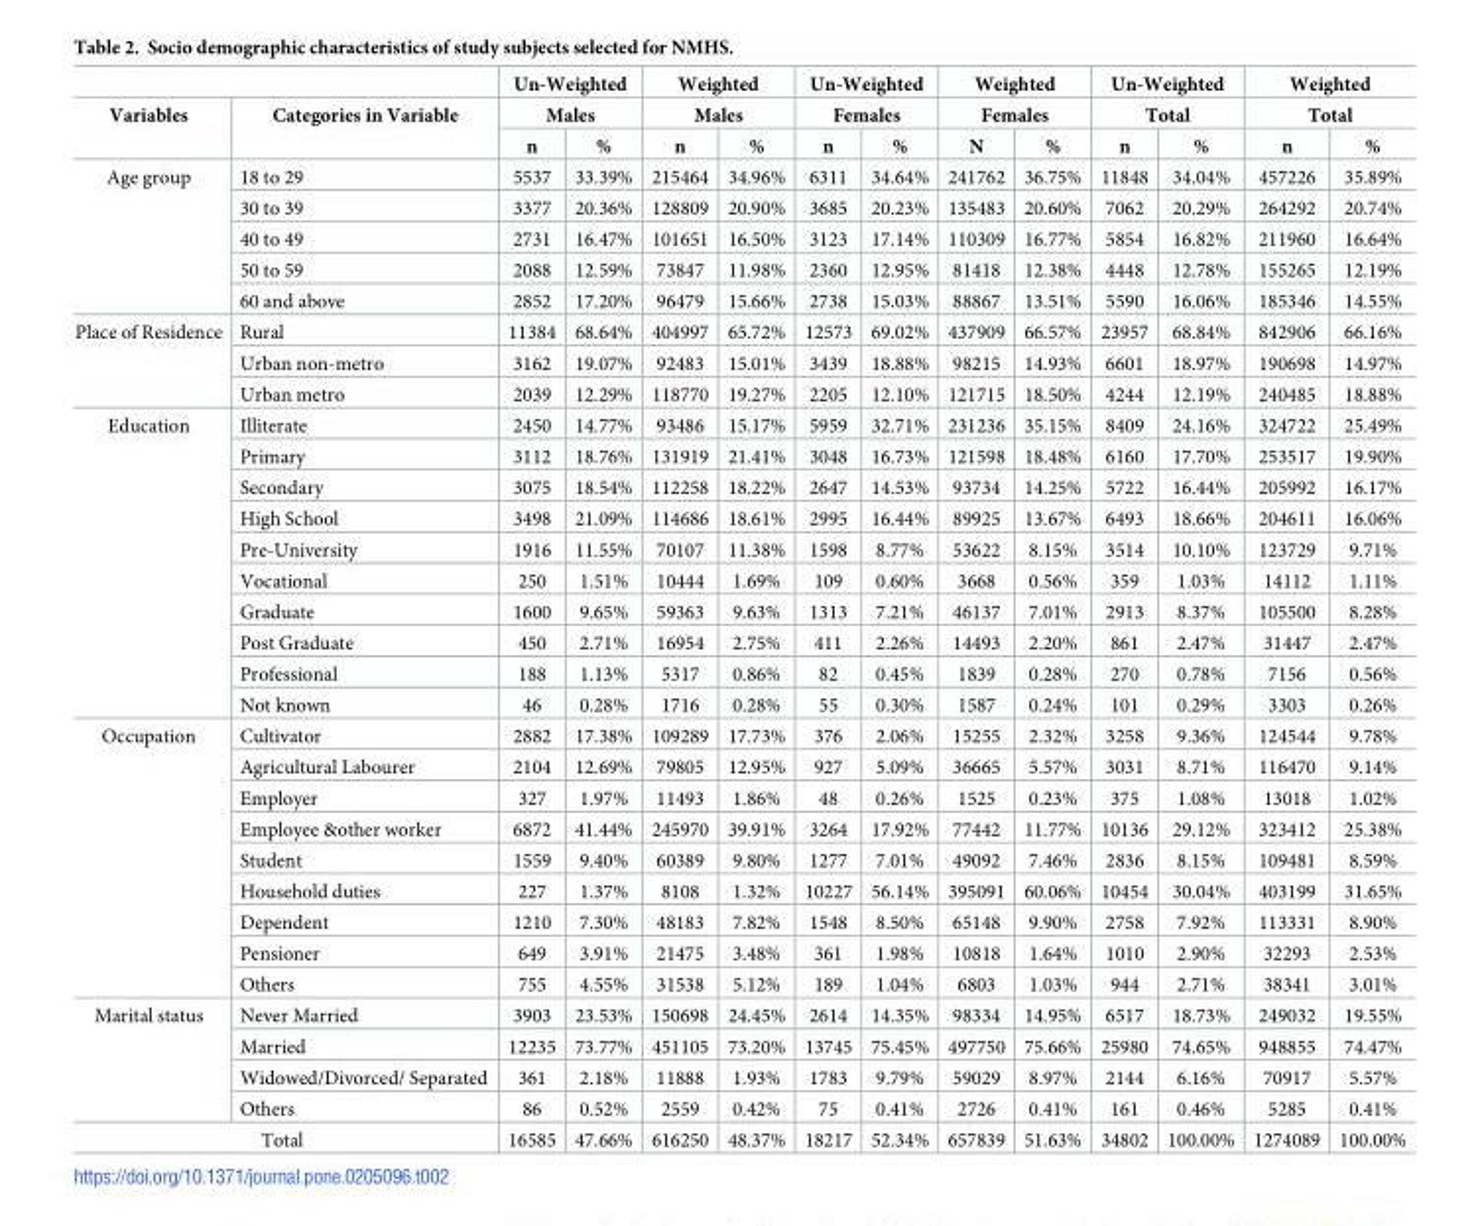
<table><thead><tr><td rowspan="3">Variables</td><td rowspan="3">Categories in Variable</td><td rowspan="2" colspan="2">Un-Weighted Males</td><td rowspan="2" colspan="2">Weighted Males</td><td rowspan="2" colspan="2">Un-Weighted Females</td><td rowspan="2" colspan="2">Weighted Females</td><td rowspan="2" colspan="2">Un-Weighted Total</td><td rowspan="2" colspan="2">Weighted Total</td></tr><tr></tr><tr><td>n</td><td>%</td><td>n</td><td>%</td><td>n</td><td>%</td><td>N</td><td>%</td><td>n</td><td>%</td><td>n</td><td>%</td></tr></thead><tbody><tr><td rowspan="5">Age group</td><td>18 to 29</td><td>5537</td><td>33.39%</td><td>215464</td><td>34.96%</td><td>6311</td><td>34.64%</td><td>241762</td><td>36.75%</td><td>11848</td><td>34.04%</td><td>457226</td><td>35.89%</td></tr><tr><td>30 to 39</td><td>3377</td><td>20.36%</td><td>128809</td><td>20.90%</td><td>3685</td><td>20.23%</td><td>135483</td><td>20.60%</td><td>7062</td><td>20.29%</td><td>264292</td><td>20.74%</td></tr><tr><td>40 to 49</td><td>2731</td><td>16.47%</td><td>101651</td><td>16.50%</td><td>3123</td><td>17.14%</td><td>110309</td><td>16.77%</td><td>5854</td><td>16.82%</td><td>211960</td><td>16.64%</td></tr><tr><td>50 to 59</td><td>2088</td><td>12.59%</td><td>73847</td><td>11.98%</td><td>2360</td><td>12.95%</td><td>81418</td><td>12.38%</td><td>4448</td><td>12.78%</td><td>155265</td><td>12.19%</td></tr><tr><td>60 and above</td><td>2852</td><td>17.20%</td><td>96479</td><td>15.66%</td><td>2738</td><td>15.03%</td><td>88867</td><td>13.51%</td><td>5590</td><td>16.06%</td><td>185346</td><td>14.55%</td></tr><tr><td rowspan="3">Place of Residence</td><td>Rural</td><td>11384</td><td>68.64%</td><td>404997</td><td>65.72%</td><td>12573</td><td>69.02%</td><td>437909</td><td>66.57%</td><td>23957</td><td>68.84%</td><td>842906</td><td>66.16%</td></tr><tr><td>Urban non-metro</td><td>3162</td><td>19.07%</td><td>92483</td><td>15.01%</td><td>3439</td><td>18.88%</td><td>98215</td><td>14.93%</td><td>6601</td><td>18.97%</td><td>190698</td><td>14.97%</td></tr><tr><td>Urban metro</td><td>2039</td><td>12.29%</td><td>118770</td><td>19.27%</td><td>2205</td><td>12.10%</td><td>121715</td><td>18.50%</td><td>4244</td><td>12.19%</td><td>240485</td><td>18.88%</td></tr><tr><td rowspan="10">Education</td><td>Illiterate</td><td>2450</td><td>14.77%</td><td>93486</td><td>15.17%</td><td>5959</td><td>32.71%</td><td>231236</td><td>35.15%</td><td>8409</td><td>24.16%</td><td>324722</td><td>25.49%</td></tr><tr><td>Primary</td><td>3112</td><td>18.76%</td><td>131919</td><td>21.41%</td><td>3048</td><td>16.73%</td><td>121598</td><td>18.48%</td><td>6160</td><td>17.70%</td><td>253517</td><td>19.90%</td></tr><tr><td>Secondary</td><td>3075</td><td>18.54%</td><td>112258</td><td>18.22%</td><td>2647</td><td>14.53%</td><td>93734</td><td>14.25%</td><td>5722</td><td>16.44%</td><td>205992</td><td>16.17%</td></tr><tr><td>High School</td><td>3498</td><td>21.09%</td><td>114686</td><td>18.61%</td><td>2995</td><td>16.44%</td><td>89925</td><td>13.67%</td><td>6493</td><td>18.66%</td><td>204611</td><td>16.06%</td></tr><tr><td>Pre-University</td><td>1916</td><td>11.55%</td><td>70107</td><td>11.38%</td><td>1598</td><td>8.77%</td><td>53622</td><td>8.15%</td><td>3514</td><td>10.10%</td><td>123729</td><td>9.71%</td></tr><tr><td>Vocational</td><td>250</td><td>1.51%</td><td>10444</td><td>1.69%</td><td>109</td><td>0.60%</td><td>3668</td><td>0.56%</td><td>359</td><td>1.03%</td><td>14112</td><td>1.11%</td></tr><tr><td>Graduate</td><td>1600</td><td>9.65%</td><td>59363</td><td>9.63%</td><td>1313</td><td>7.21%</td><td>46137</td><td>7.01%</td><td>2913</td><td>8.37%</td><td>105500</td><td>8.28%</td></tr><tr><td>Post Graduate</td><td>450</td><td>2.71%</td><td>16954</td><td>2.75%</td><td>411</td><td>2.26%</td><td>14493</td><td>2.20%</td><td>861</td><td>2.47%</td><td>31447</td><td>2.47%</td></tr><tr><td>Professional</td><td>188</td><td>1.13%</td><td>5317</td><td>0.86%</td><td>82</td><td>0.45%</td><td>1839</td><td>0.28%</td><td>270</td><td>0.78%</td><td>7156</td><td>0.56%</td></tr><tr><td>Not known</td><td>46</td><td>0.28%</td><td>1716</td><td>0.28%</td><td>55</td><td>0.30%</td><td>1587</td><td>0.24%</td><td>101</td><td>0.29%</td><td>3303</td><td>0.26%</td></tr><tr><td rowspan="9">Occupation</td><td>Cultivator</td><td>2882</td><td>17.38%</td><td>109289</td><td>17.73%</td><td>376</td><td>2.06%</td><td>15255</td><td>2.32%</td><td>3258</td><td>9.36%</td><td>124544</td><td>9.78%</td></tr><tr><td>Agricultural Labourer</td><td>2104</td><td>12.69%</td><td>79805</td><td>12.95%</td><td>927</td><td>5.09%</td><td>36665</td><td>5.57%</td><td>3031</td><td>8.71%</td><td>116470</td><td>9.14%</td></tr><tr><td>Employer</td><td>327</td><td>1.97%</td><td>11493</td><td>1.86%</td><td>48</td><td>0.26%</td><td>1525</td><td>0.23%</td><td>375</td><td>1.08%</td><td>13018</td><td>1.02%</td></tr><tr><td>Employee &amp;other worker</td><td>6872</td><td>41.44%</td><td>245970</td><td>39.91%</td><td>3264</td><td>17.92%</td><td>77442</td><td>11.77%</td><td>10136</td><td>29.12%</td><td>323412</td><td>25.38%</td></tr><tr><td>Student</td><td>1559</td><td>9.40%</td><td>60389</td><td>9.80%</td><td>1277</td><td>7.01%</td><td>49092</td><td>7.46%</td><td>2836</td><td>8.15%</td><td>109481</td><td>8.59%</td></tr><tr><td>Household duties</td><td>227</td><td>1.37%</td><td>8108</td><td>1.32%</td><td>10227</td><td>56.14%</td><td>395091</td><td>60.06%</td><td>10454</td><td>30.04%</td><td>403199</td><td>31.65%</td></tr><tr><td>Dependent</td><td>1210</td><td>7.30%</td><td>48183</td><td>7.82%</td><td>1548</td><td>8.50%</td><td>65148</td><td>9.90%</td><td>2758</td><td>7.92%</td><td>113331</td><td>8.90%</td></tr><tr><td>Pensioner</td><td>649</td><td>3.91%</td><td>21475</td><td>3.48%</td><td>361</td><td>1.98%</td><td>10818</td><td>1.64%</td><td>1010</td><td>2.90%</td><td>32293</td><td>2.53%</td></tr><tr><td>Others</td><td>755</td><td>4.55%</td><td>31538</td><td>5.12%</td><td>189</td><td>1.04%</td><td>6803</td><td>1.03%</td><td>944</td><td>2.71%</td><td>38341</td><td>3.01%</td></tr><tr><td rowspan="4">Marital status</td><td>Never Married</td><td>3903</td><td>23.53%</td><td>150698</td><td>24.45%</td><td>2614</td><td>14.35%</td><td>98334</td><td>14.95%</td><td>6517</td><td>18.73%</td><td>249032</td><td>19.55%</td></tr><tr><td>Married</td><td>12235</td><td>73.77%</td><td>451105</td><td>73.20%</td><td>13745</td><td>75.45%</td><td>497750</td><td>75.66%</td><td>25980</td><td>74.65%</td><td>948855</td><td>74.47%</td></tr><tr><td>Widowed/Divorced/ Separated</td><td>361</td><td>2.18%</td><td>11888</td><td>1.93%</td><td>1783</td><td>9.79%</td><td>59029</td><td>8.97%</td><td>2144</td><td>6.16%</td><td>70917</td><td>5.57%</td></tr><tr><td>Others</td><td>86</td><td>0.52%</td><td>2559</td><td>0.42%</td><td>75</td><td>0.41%</td><td>2726</td><td>0.41%</td><td>161</td><td>0.46%</td><td>5285</td><td>0.41%</td></tr><tr><td colspan="2">Total</td><td>16585</td><td>47.66%</td><td>616250</td><td>48.37%</td><td>18217</td><td>52.34%</td><td>657839</td><td>51.63%</td><td>34802</td><td>100.00%</td><td>1274089</td><td>100.00%</td></tr></tbody></table>